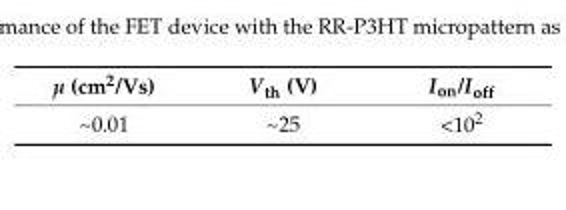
<table><thead><tr><td>(cm2/Vs)</td><td>V<sub>th</sub> (V)</td><td>I<sub>on</sub>/I<sub>off</sub></td></tr></thead><tbody><tr><td>~0.01</td><td>~25</td><td>&lt;10<sup>2</sup></td></tr></tbody></table>